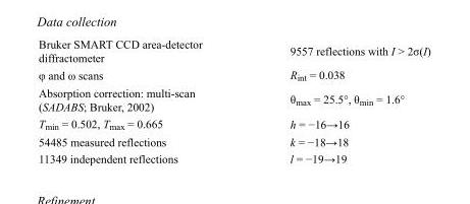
<table><tbody><tr><td>Bruker SMART CCD area-detector diffractometer</td><td>9557 reflections with I &gt; 2σ(I)</td></tr><tr><td>φ and ω scans</td><td>R<sub>int</sub> = 0.038</td></tr><tr><td>Absorption correction: multi-scan (SADABS; Bruker, 2002)</td><td>θ<sub>max</sub> = 25.5°, θ<sub>min</sub> = 1.6°</td></tr><tr><td>T<sub>min</sub> = 0.502, T<sub>max</sub> = 0.665</td><td>h = −16→16</td></tr><tr><td>54485 measured reflections</td><td>k = −18→18</td></tr><tr><td>11349 independent reflections</td><td>l = −19→19</td></tr></tbody></table>